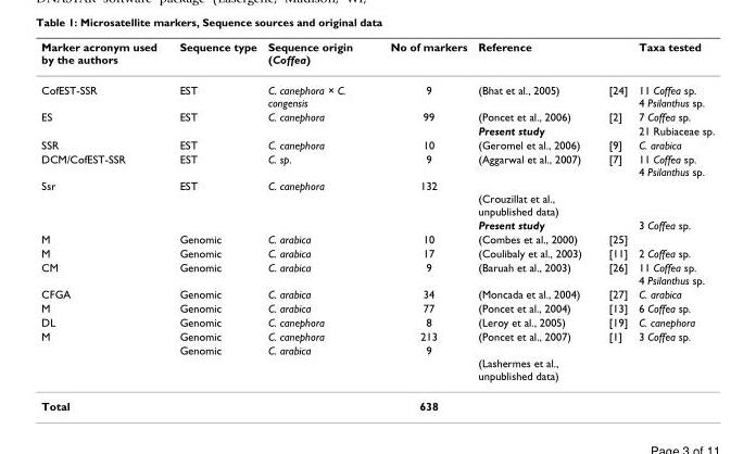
<table><thead><tr><td>Marker acronym used by the authors</td><td>Sequence type</td><td>Sequence origin (Coffea)</td><td>No of markers</td><td>Reference</td><td></td><td>Taxa tested</td></tr></thead><tbody><tr><td>CofEST-SSR</td><td>EST</td><td>C. canephora × C. congensis</td><td>9</td><td>(Bhat et al., 2005)</td><td>[24]</td><td>11 Coffea sp. 4 Psilanthus sp.</td></tr><tr><td rowspan="2">ES</td><td>EST</td><td>C. canephora</td><td>99</td><td>(Poncet et al., 2006)</td><td>[2]</td><td>7 Coffea sp.</td></tr><tr><td></td><td></td><td></td><td>Present study</td><td></td><td>21 Rubiaceae sp.</td></tr><tr><td>SSR</td><td>EST</td><td>C. canephora</td><td>10</td><td>(Geromel et al., 2006)</td><td>[9]</td><td>C. arabica</td></tr><tr><td>DCM/CofEST-SSR</td><td>EST</td><td>C. sp.</td><td>9</td><td>(Aggarwal et al., 2007)</td><td>[7]</td><td>11 Coffea sp. 4 Psilanthus sp.</td></tr><tr><td rowspan="2">Ssr</td><td>EST</td><td>C. canephora</td><td>132</td><td>(Crouzillat et al., unpublished data)</td><td></td><td></td></tr><tr><td></td><td></td><td></td><td>Present study</td><td></td><td>3 Coffea sp.</td></tr><tr><td>M</td><td>Genomic</td><td>C. arabica</td><td>10</td><td>(Combes et al., 2000)</td><td>[25]</td><td></td></tr><tr><td>M</td><td>Genomic</td><td>C. arabica</td><td>17</td><td>(Coulibaly et al., 2003)</td><td>[11]</td><td>2 Coffea sp.</td></tr><tr><td>CM</td><td>Genomic</td><td>C. arabica</td><td>9</td><td>(Baruah et al., 2003)</td><td>[26]</td><td>11 Coffea sp. 4 Psilanthus sp.</td></tr><tr><td>CFGA</td><td>Genomic</td><td>C. arabica</td><td>34</td><td>(Moncada et al., 2004)</td><td>[27]</td><td>C. arabica</td></tr><tr><td>M</td><td>Genomic</td><td>C. arabica</td><td>77</td><td>(Poncet et al., 2004)</td><td>[13]</td><td>6 Coffea sp.</td></tr><tr><td>DL</td><td>Genomic</td><td>C. canephora</td><td>8</td><td>(Leroy et al., 2005)</td><td>[19]</td><td>C. canephora</td></tr><tr><td rowspan="2">M</td><td>Genomic</td><td>C. canephora</td><td>213</td><td>(Poncet et al., 2007)</td><td>[1]</td><td>3 Coffea sp.</td></tr><tr><td>Genomic</td><td>C. arabica</td><td>9</td><td>(Lashermes et al., unpublished data)</td><td></td><td></td></tr><tr><td>Total</td><td></td><td></td><td>638</td><td></td><td></td><td></td></tr></tbody></table>